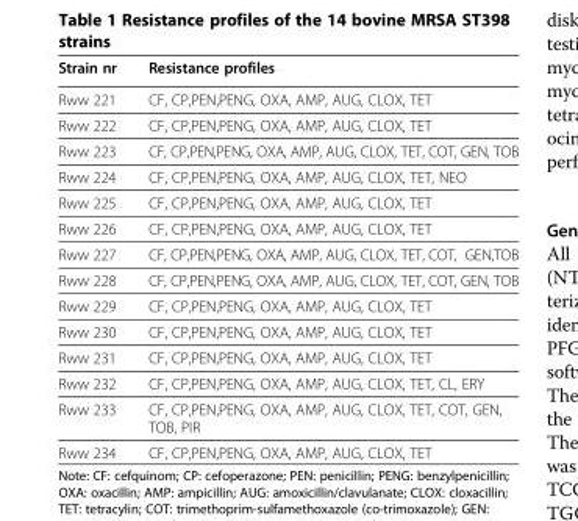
<table><thead><tr><td>Strain nr</td><td>Resistance profiles</td></tr></thead><tbody><tr><td>Rww 221</td><td>CF, CP,PEN,PENG, OXA, AMP, AUG, CLOX, TET</td></tr><tr><td>Rww 222</td><td>CF, CP,PEN,PENG, OXA, AMP, AUG, CLOX, TET</td></tr><tr><td>Rww 223</td><td>CF, CP,PEN,PENG, OXA, AMP, AUG, CLOX, TET, COT, GEN, TOB</td></tr><tr><td>Rww 224</td><td>CF, CP,PEN,PENG, OXA, AMP, AUG, CLOX, TET, NEO</td></tr><tr><td>Rww 225</td><td>CF, CP,PEN,PENG, OXA, AMP, AUG, CLOX, TET</td></tr><tr><td>Rww 226</td><td>CF, CP,PEN,PENG, OXA, AMP, AUG, CLOX, TET</td></tr><tr><td>Rww 227</td><td>CF, CP,PEN,PENG, OXA, AMP, AUG, CLOX, TET, COT, GEN,TOB</td></tr><tr><td>Rww 228</td><td>CF, CP,PEN,PENG, OXA, AMP, AUG, CLOX, TET, COT, GEN, TOB</td></tr><tr><td>Rww 229</td><td>CF, CP,PEN,PENG, OXA, AMP, AUG, CLOX, TET</td></tr><tr><td>Rww 230</td><td>CF, CP,PEN,PENG, OXA, AMP, AUG, CLOX, TET</td></tr><tr><td>Rww 231</td><td>CF, CP,PEN,PENG, OXA, AMP, AUG, CLOX, TET</td></tr><tr><td>Rww 232</td><td>CF, CP,PEN,PENG, OXA, AMP, AUG, CLOX, TET, CL, ERY</td></tr><tr><td>Rww 233</td><td>CF, CP,PEN,PENG, OXA, AMP, AUG, CLOX, TET, COT, GEN, TOB, PIR</td></tr><tr><td>Rww 234</td><td>CF, CP,PEN,PENG, OXA, AMP, AUG, CLOX, TET</td></tr></tbody></table>